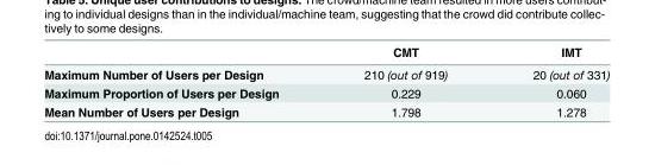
<table><thead><tr><td></td><td>CMT</td><td>IMT</td></tr></thead><tbody><tr><td>Maximum Number of Users per Design</td><td>210 (out of 919)</td><td>20 (out of 331)</td></tr><tr><td>Maximum Proportion of Users per Design</td><td>0.229</td><td>0.060</td></tr><tr><td>Mean Number of Users per Design</td><td>1.798</td><td>1.278</td></tr></tbody></table>